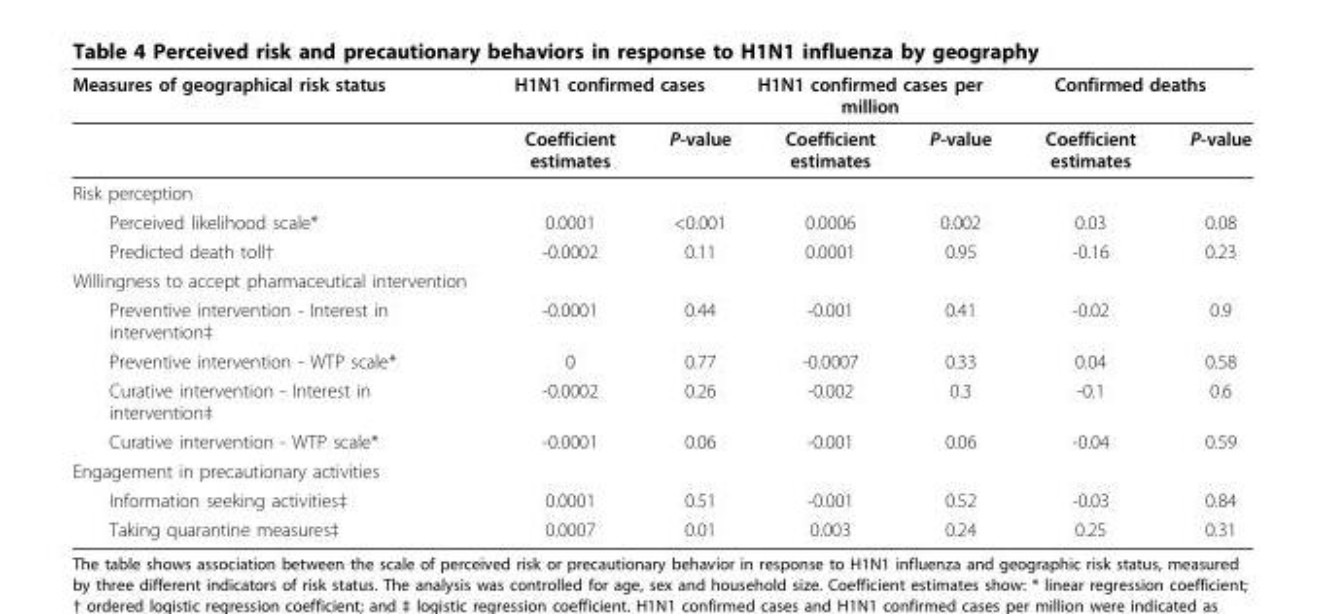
<table><thead><tr><td rowspan="2">Measures of geographical risk status</td><td colspan="2">H1N1 confirmed cases</td><td colspan="2">H1N1 confirmed cases per million</td><td colspan="2">Confirmed deaths</td></tr><tr><td>Coefficient estimates</td><td>P-value</td><td>Coefficient estimates</td><td>P-value</td><td>Coefficient estimates</td><td>P-value</td></tr></thead><tbody><tr><td colspan="7">Risk perception</td></tr><tr><td>Perceived likelihood scale*</td><td>0.0001</td><td>&lt;0.001</td><td>0.0006</td><td>0.002</td><td>0.03</td><td>0.08</td></tr><tr><td>Predicted death toll†</td><td>-0.0002</td><td>0.11</td><td>0.0001</td><td>0.95</td><td>-0.16</td><td>0.23</td></tr><tr><td colspan="7">Willingness to accept pharmaceutical intervention</td></tr><tr><td>Preventive intervention - Interest in intervention‡</td><td>-0.0001</td><td>0.44</td><td>-0.001</td><td>0.41</td><td>-0.02</td><td>0.9</td></tr><tr><td>Preventive intervention - WTP scale*</td><td>0</td><td>0.77</td><td>-0.0007</td><td>0.33</td><td>0.04</td><td>0.58</td></tr><tr><td>Curative intervention - Interest in intervention‡</td><td>-0.0002</td><td>0.26</td><td>-0.002</td><td>0.3</td><td>-0.1</td><td>0.6</td></tr><tr><td>Curative intervention - WTP scale*</td><td>-0.0001</td><td>0.06</td><td>-0.001</td><td>0.06</td><td>-0.04</td><td>0.59</td></tr><tr><td colspan="7">Engagement in precautionary activities</td></tr><tr><td>Information seeking activities‡</td><td>0.0001</td><td>0.51</td><td>-0.001</td><td>0.52</td><td>-0.03</td><td>0.84</td></tr><tr><td>Taking quarantine measures‡</td><td>0.0007</td><td>0.01</td><td>0.003</td><td>0.24</td><td>0.25</td><td>0.31</td></tr></tbody></table>